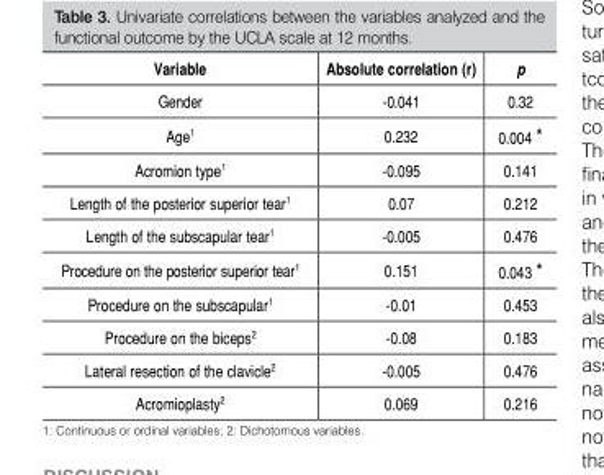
<table><thead><tr><td>Variable</td><td>Absolute correlation (r)</td><td>p</td></tr></thead><tbody><tr><td>Gender</td><td>-0.041</td><td>0.32</td></tr><tr><td>Age<sup>1</sup></td><td>0.232</td><td>0.004 *</td></tr><tr><td>Acromion type<sup>1</sup></td><td>-0.095</td><td>0.141</td></tr><tr><td>Length of the posterior superior tear<sup>1</sup></td><td>0.07</td><td>0.212</td></tr><tr><td>Length of the subscapular tear<sup>1</sup></td><td>-0.005</td><td>0.476</td></tr><tr><td>Procedure on the posterior superior tear<sup>1</sup></td><td>0.151</td><td>0.043 *</td></tr><tr><td>Procedure on the subscapular<sup>1</sup></td><td>-0.01</td><td>0.453</td></tr><tr><td>Procedure on the biceps<sup>2</sup></td><td>-0.08</td><td>0.183</td></tr><tr><td>Lateral resection of the clavicle<sup>2</sup></td><td>-0.005</td><td>0.476</td></tr><tr><td>Acromioplasty<sup>2</sup></td><td>0.069</td><td>0.216</td></tr></tbody></table>